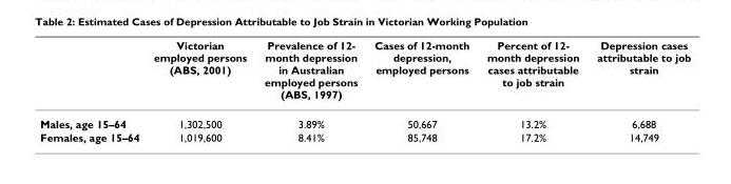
<table><thead><tr><td></td><td>Victorian employed persons (ABS, 2001)</td><td>Prevalence of 12- month depression in Australian employed persons (ABS, 1997)</td><td>Cases of 12-month depression, employed persons</td><td>Percent of 12- month depression cases attributable to job strain</td><td>Depression cases attributable to job strain</td></tr></thead><tbody><tr><td>Males, age 15–64</td><td>1,302,500</td><td>3.89%</td><td>50,667</td><td>13.2%</td><td>6,688</td></tr><tr><td>Females, age 15–64</td><td>1,019,600</td><td>8.41%</td><td>85,748</td><td>17.2%</td><td>14,749</td></tr></tbody></table>